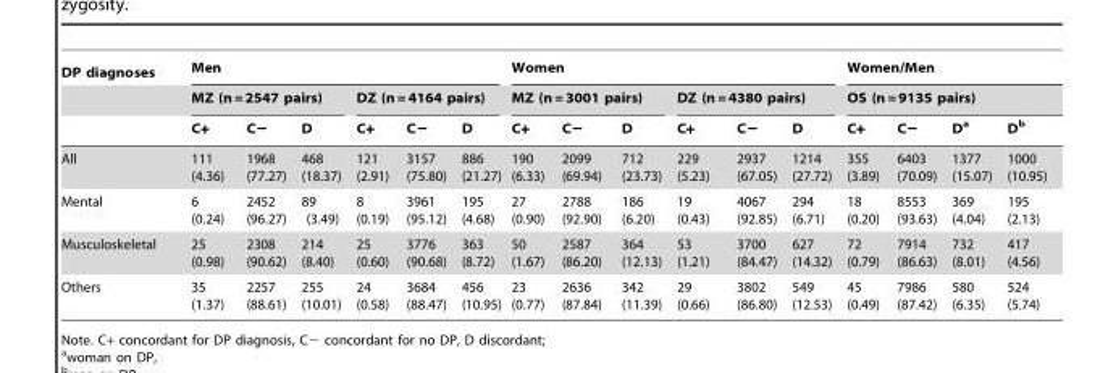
<table><thead><tr><td rowspan="3">DP diagnoses</td><td colspan="6">Men</td><td colspan="6">Women</td><td rowspan="2" colspan="4">Women/Men OS (n = 9135 pairs)</td></tr><tr><td colspan="3">MZ (n = 2547 pairs)</td><td colspan="3">DZ (n = 4164 pairs)</td><td colspan="3">MZ (n = 3001 pairs)</td><td colspan="3">DZ (n = 4380 pairs)</td></tr><tr><td>C+</td><td>C−</td><td>D</td><td>C+</td><td>C−</td><td>D</td><td>C+</td><td>C−</td><td>D</td><td>C+</td><td>C−</td><td>D</td><td>C+</td><td>C−</td><td>D<sup>a</sup></td><td>D<sup>b</sup></td></tr></thead><tbody><tr><td>All</td><td>111 (4.36)</td><td>1968 (77.27)</td><td>468 (18.37)</td><td>121 (2.91)</td><td>3157 (75.80)</td><td>886 (21.27)</td><td>190 (6.33)</td><td>2099 (69.94)</td><td>712 (23.73)</td><td>229 (5.23)</td><td>2937 (67.05)</td><td>1214 (27.72)</td><td>355 (3.89)</td><td>6403 (70.09)</td><td>1377 (15.07)</td><td>1000 (10.95)</td></tr><tr><td>Mental</td><td>6 (0.24)</td><td>2452 (96.27)</td><td>89 (3.49)</td><td>8 (0.19)</td><td>3961 (95.12)</td><td>195 (4.68)</td><td>27 (0.90)</td><td>2788 (92.90)</td><td>186 (6.20)</td><td>19 (0.43)</td><td>4067 (92.85)</td><td>294 (6.71)</td><td>18 (0.20)</td><td>8553 (93.63)</td><td>369 (4.04)</td><td>195 (2.13)</td></tr><tr><td>Musculoskeletal</td><td>25 (0.98)</td><td>2308 (90.62)</td><td>214 (8.40)</td><td>25 (0.60)</td><td>3776 (90.68)</td><td>363 (8.72)</td><td>50 (1.67)</td><td>2587 (86.20)</td><td>364 (12.13)</td><td>53 (1.21)</td><td>3700 (84.47)</td><td>627 (14.32)</td><td>72 (0.79)</td><td>7914 (86.63)</td><td>732 (8.01)</td><td>417 (4.56)</td></tr><tr><td>Others</td><td>35 (1.37)</td><td>2257 (88.61)</td><td>255 (10.01)</td><td>24 (0.58)</td><td>3684 (88.47)</td><td>456 (10.95)</td><td>23 (0.77)</td><td>2636 (87.84)</td><td>342 (11.39)</td><td>29 (0.66)</td><td>3802 (86.80)</td><td>549 (12.53)</td><td>45 (0.49)</td><td>7986 (87.42)</td><td>580 (6.35)</td><td>524 (5.74)</td></tr></tbody></table>